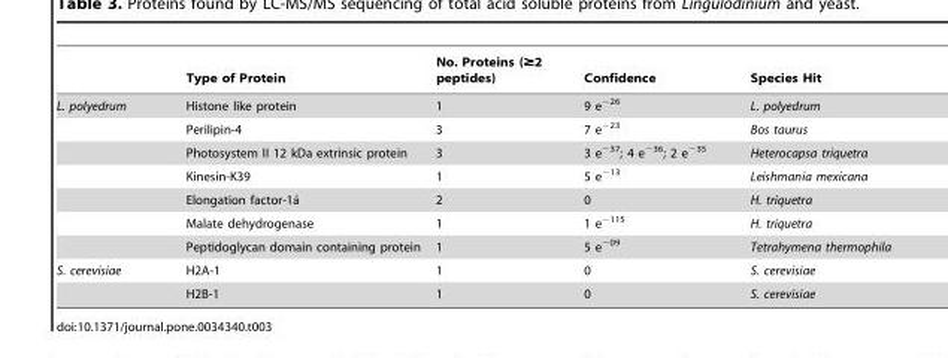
<table><thead><tr><td></td><td>Type of Protein</td><td>No. Proteins (≥2 peptides)</td><td>Confidence</td><td>Species Hit</td></tr></thead><tbody><tr><td rowspan="7">L. polyedrum</td><td>Histone like protein</td><td>1</td><td>9 e<sup>−26</sup></td><td>L. polyedrum</td></tr><tr><td>Perilipin-4</td><td>3</td><td>7 e<sup>−23</sup></td><td>Bos taurus</td></tr><tr><td>Photosystem II 12 kDa extrinsic protein</td><td>3</td><td>3 e<sup>−37</sup>; 4 e<sup>−36</sup>; 2 e<sup>−35</sup></td><td>Heterocapsa triquetra</td></tr><tr><td>Kinesin-K39</td><td>1</td><td>5 e<sup>−13</sup></td><td>Leishmania mexicana</td></tr><tr><td>Elongation factor-1a´</td><td>2</td><td>0</td><td>H. triquetra</td></tr><tr><td>Malate dehydrogenase</td><td>1</td><td>1 e<sup>−115</sup></td><td>H. triquetra</td></tr><tr><td>Peptidoglycan domain containing protein</td><td>1</td><td>5 e<sup>−09</sup></td><td>Tetrahymena thermophila</td></tr><tr><td rowspan="2">S. cerevisiae</td><td>H2A-1</td><td>1</td><td>0</td><td>S. cerevisiae</td></tr><tr><td>H2B-1</td><td>1</td><td>0</td><td>S. cerevisiae</td></tr></tbody></table>